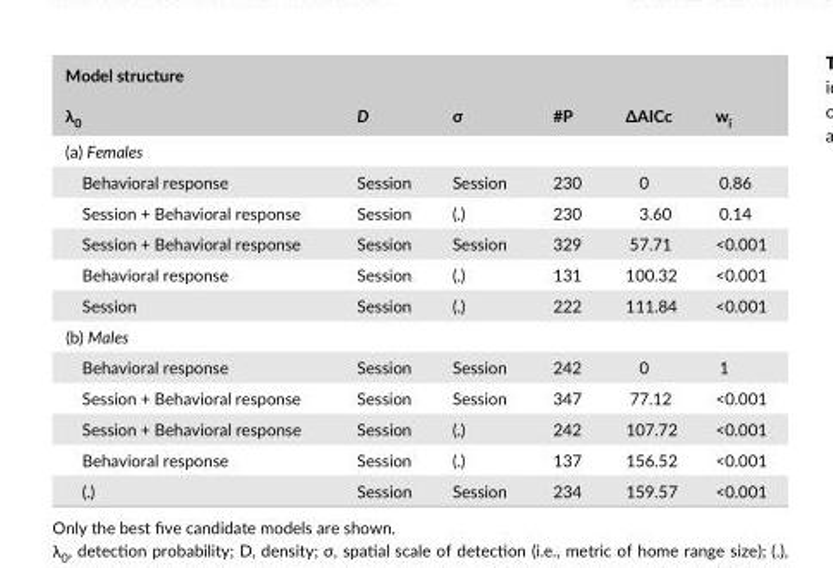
<table><thead><tr><td colspan="6">Model structure</td></tr><tr><td>λ<sub>0</sub></td><td>D</td><td>σ</td><td>#P</td><td>ΔAICc</td><td>w<sub>i</sub></td></tr></thead><tbody><tr><td colspan="6">(a) Females</td></tr><tr><td>Behavioral response</td><td>Session</td><td>Session</td><td>230</td><td>0</td><td>0.86</td></tr><tr><td>Session + Behavioral response</td><td>Session</td><td>(.)</td><td>230</td><td>3.60</td><td>0.14</td></tr><tr><td>Session + Behavioral response</td><td>Session</td><td>Session</td><td>329</td><td>57.71</td><td>&lt;0.001</td></tr><tr><td>Behavioral response</td><td>Session</td><td>(.)</td><td>131</td><td>100.32</td><td>&lt;0.001</td></tr><tr><td>Session</td><td>Session</td><td>(.)</td><td>222</td><td>111.84</td><td>&lt;0.001</td></tr><tr><td colspan="6">(b) Males</td></tr><tr><td>Behavioral response</td><td>Session</td><td>Session</td><td>242</td><td>0</td><td>1</td></tr><tr><td>Session + Behavioral response</td><td>Session</td><td>Session</td><td>347</td><td>77.12</td><td>&lt;0.001</td></tr><tr><td>Session + Behavioral response</td><td>Session</td><td>(.)</td><td>242</td><td>107.72</td><td>&lt;0.001</td></tr><tr><td>Behavioral response</td><td>Session</td><td>(.)</td><td>137</td><td>156.52</td><td>&lt;0.001</td></tr><tr><td>(.)</td><td>Session</td><td>Session</td><td>234</td><td>159.57</td><td>&lt;0.001</td></tr></tbody></table>